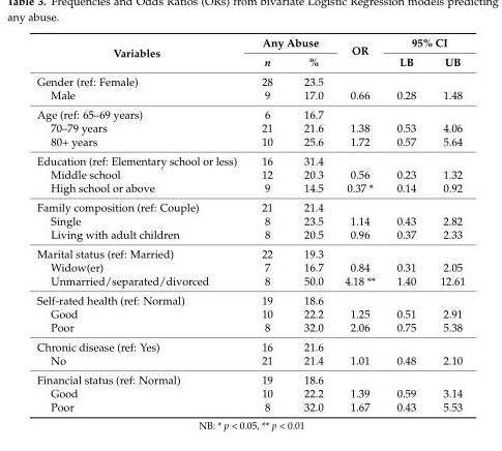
<table><thead><tr><td rowspan="2">Variables</td><td colspan="2">Any Abuse</td><td rowspan="2">OR</td><td colspan="2">95% CI</td></tr><tr><td>n</td><td>%</td><td>LB</td><td>UB</td></tr></thead><tbody><tr><td>Gender (ref: Female)</td><td>28</td><td>23.5</td><td></td><td></td><td></td></tr><tr><td>Male</td><td>9</td><td>17.0</td><td>0.66</td><td>0.28</td><td>1.48</td></tr><tr><td>Age (ref: 65–69 years)</td><td>6</td><td>16.7</td><td></td><td></td><td></td></tr><tr><td>70–79 years</td><td>21</td><td>21.6</td><td>1.38</td><td>0.53</td><td>4.06</td></tr><tr><td>80+ years</td><td>10</td><td>25.6</td><td>1.72</td><td>0.57</td><td>5.64</td></tr><tr><td>Education (ref: Elementary school or less)</td><td>16</td><td>31.4</td><td></td><td></td><td></td></tr><tr><td>Middle school</td><td>12</td><td>20.3</td><td>0.56</td><td>0.23</td><td>1.32</td></tr><tr><td>High school or above</td><td>9</td><td>14.5</td><td>0.37 *</td><td>0.14</td><td>0.92</td></tr><tr><td>Family composition (ref: Couple)</td><td>21</td><td>21.4</td><td></td><td></td><td></td></tr><tr><td>Single</td><td>8</td><td>23.5</td><td>1.14</td><td>0.43</td><td>2.82</td></tr><tr><td>Living with adult children</td><td>8</td><td>20.5</td><td>0.96</td><td>0.37</td><td>2.33</td></tr><tr><td>Marital status (ref: Married)</td><td>22</td><td>19.3</td><td></td><td></td><td></td></tr><tr><td>Widow(er)</td><td>7</td><td>16.7</td><td>0.84</td><td>0.31</td><td>2.05</td></tr><tr><td>Unmarried/separated/divorced</td><td>8</td><td>50.0</td><td>4.18 **</td><td>1.40</td><td>12.61</td></tr><tr><td>Self-rated health (ref: Normal)</td><td>19</td><td>18.6</td><td></td><td></td><td></td></tr><tr><td>Good</td><td>10</td><td>22.2</td><td>1.25</td><td>0.51</td><td>2.91</td></tr><tr><td>Poor</td><td>8</td><td>32.0</td><td>2.06</td><td>0.75</td><td>5.38</td></tr><tr><td>Chronic disease (ref: Yes)</td><td>16</td><td>21.6</td><td></td><td></td><td></td></tr><tr><td>No</td><td>21</td><td>21.4</td><td>1.01</td><td>0.48</td><td>2.10</td></tr><tr><td>Financial status (ref: Normal)</td><td>19</td><td>18.6</td><td></td><td></td><td></td></tr><tr><td>Good</td><td>10</td><td>22.2</td><td>1.39</td><td>0.59</td><td>3.14</td></tr><tr><td>Poor</td><td>8</td><td>32.0</td><td>1.67</td><td>0.43</td><td>5.53</td></tr></tbody></table>